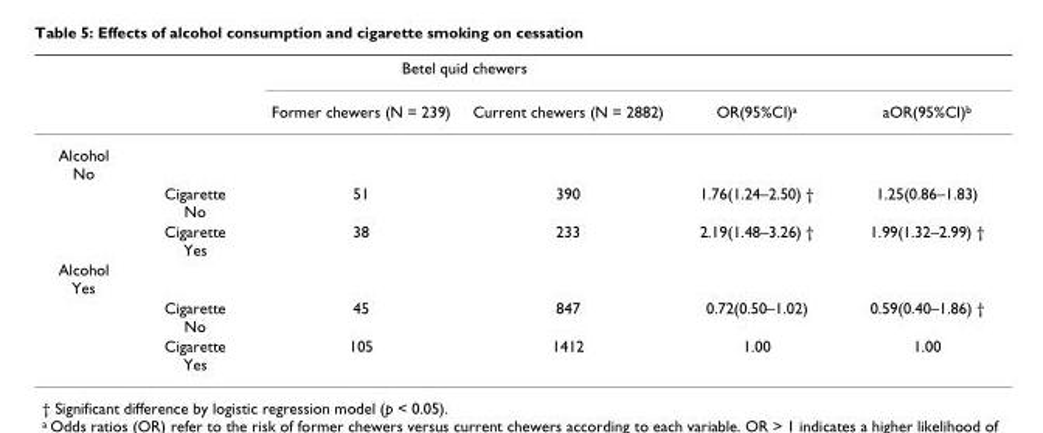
<table><thead><tr><td rowspan="2"></td><td rowspan="2"></td><td colspan="2">Betel quid chewers</td><td rowspan="2">OR(95%CI)a</td><td rowspan="2">aOR(95%CI)b</td></tr><tr><td>Former chewers (N = 239)</td><td>Current chewers (N = 2882)</td></tr></thead><tbody><tr><td colspan="6">Alcohol No</td></tr><tr><td></td><td>Cigarette No</td><td>51</td><td>390</td><td>1.76(1.24–2.50) †</td><td>1.25(0.86–1.83)</td></tr><tr><td></td><td>Cigarette Yes</td><td>38</td><td>233</td><td>2.19(1.48–3.26) †</td><td>1.99(1.32–2.99) †</td></tr><tr><td colspan="6">Alcohol Yes</td></tr><tr><td></td><td>Cigarette No</td><td>45</td><td>847</td><td>0.72(0.50–1.02)</td><td>0.59(0.40–1.86) †</td></tr><tr><td></td><td>Cigarette Yes</td><td>105</td><td>1412</td><td>1.00</td><td>1.00</td></tr></tbody></table>